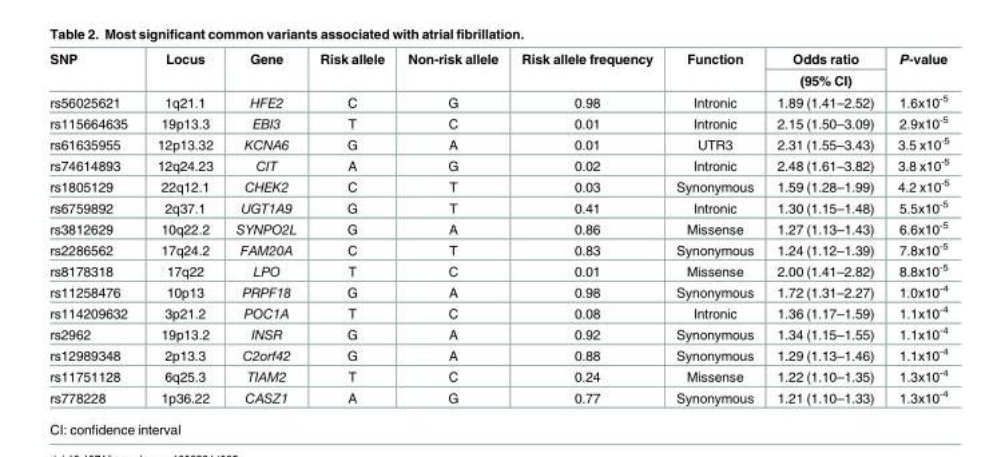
<table><thead><tr><td rowspan="2">SNP</td><td rowspan="2">Locus</td><td rowspan="2">Gene</td><td rowspan="2">Risk allele</td><td rowspan="2">Non-risk allele</td><td rowspan="2">Risk allele frequency</td><td rowspan="2">Function</td><td rowspan="2">Odds ratio (95% CI)</td><td rowspan="2">P-value</td></tr><tr></tr></thead><tbody><tr><td>rs56025621</td><td>1q21.1</td><td>HFE2</td><td>C</td><td>G</td><td>0.98</td><td>Intronic</td><td>1.89 (1.41–2.52)</td><td>1.6x10<sup>-5</sup></td></tr><tr><td>rs115664635</td><td>19p13.3</td><td>EBI3</td><td>T</td><td>C</td><td>0.01</td><td>Intronic</td><td>2.15 (1.50–3.09)</td><td>2.9x10<sup>-5</sup></td></tr><tr><td>rs61635955</td><td>12p13.32</td><td>KCNA6</td><td>G</td><td>A</td><td>0.01</td><td>UTR3</td><td>2.31 (1.55–3.43)</td><td>3.5 x10<sup>-5</sup></td></tr><tr><td>rs74614893</td><td>12q24.23</td><td>CIT</td><td>A</td><td>G</td><td>0.02</td><td>Intronic</td><td>2.48 (1.61–3.82)</td><td>3.8 x10<sup>-5</sup></td></tr><tr><td>rs1805129</td><td>22q12.1</td><td>CHEK2</td><td>C</td><td>T</td><td>0.03</td><td>Synonymous</td><td>1.59 (1.28–1.99)</td><td>4.2 x10<sup>-5</sup></td></tr><tr><td>rs6759892</td><td>2q37.1</td><td>UGT1A9</td><td>G</td><td>T</td><td>0.41</td><td>Intronic</td><td>1.30 (1.15–1.48)</td><td>5.5x10<sup>-5</sup></td></tr><tr><td>rs3812629</td><td>10q22.2</td><td>SYNPO2L</td><td>G</td><td>A</td><td>0.86</td><td>Missense</td><td>1.27 (1.13–1.43)</td><td>6.6x10<sup>-5</sup></td></tr><tr><td>rs2286562</td><td>17q24.2</td><td>FAM20A</td><td>C</td><td>T</td><td>0.83</td><td>Synonymous</td><td>1.24 (1.12–1.39)</td><td>7.8x10<sup>-5</sup></td></tr><tr><td>rs8178318</td><td>17q22</td><td>LPO</td><td>T</td><td>C</td><td>0.01</td><td>Missense</td><td>2.00 (1.41–2.82)</td><td>8.8x10<sup>-5</sup></td></tr><tr><td>rs11258476</td><td>10p13</td><td>PRPF18</td><td>G</td><td>A</td><td>0.98</td><td>Synonymous</td><td>1.72 (1.31–2.27)</td><td>1.0x10<sup>-4</sup></td></tr><tr><td>rs114209632</td><td>3p21.2</td><td>POC1A</td><td>T</td><td>C</td><td>0.08</td><td>Intronic</td><td>1.36 (1.17–1.59)</td><td>1.1x10<sup>-4</sup></td></tr><tr><td>rs2962</td><td>19p13.2</td><td>INSR</td><td>G</td><td>A</td><td>0.92</td><td>Synonymous</td><td>1.34 (1.15–1.55)</td><td>1.1x10<sup>-4</sup></td></tr><tr><td>rs12989348</td><td>2p13.3</td><td>C2orf42</td><td>G</td><td>A</td><td>0.88</td><td>Synonymous</td><td>1.29 (1.13–1.46)</td><td>1.1x10<sup>-4</sup></td></tr><tr><td>rs11751128</td><td>6q25.3</td><td>TIAM2</td><td>T</td><td>C</td><td>0.24</td><td>Missense</td><td>1.22 (1.10–1.35)</td><td>1.3x10<sup>-4</sup></td></tr><tr><td>rs778228</td><td>1p36.22</td><td>CASZ1</td><td>A</td><td>G</td><td>0.77</td><td>Synonymous</td><td>1.21 (1.10–1.33)</td><td>1.3x10<sup>-4</sup></td></tr></tbody></table>